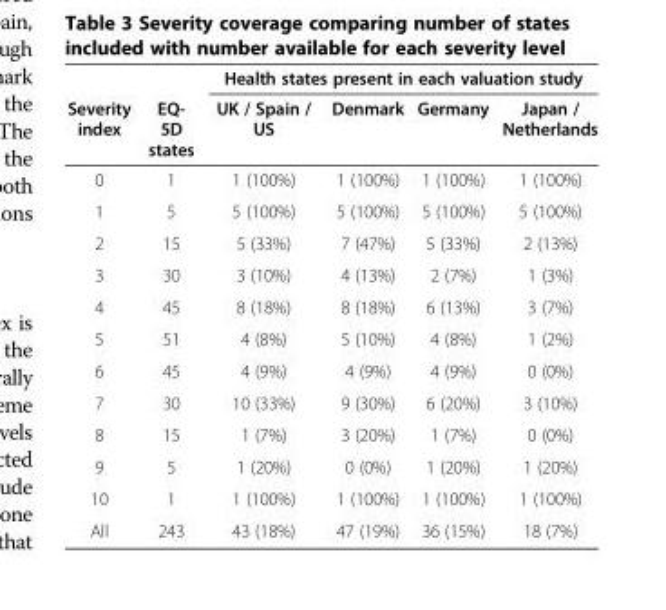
<table><thead><tr><td rowspan="2">Severity index</td><td rowspan="2">EQ- 5D states</td><td colspan="4">Health states present in each valuation study</td></tr><tr><td>UK / Spain / US</td><td>Denmark</td><td>Germany</td><td>Japan / Netherlands</td></tr></thead><tbody><tr><td>0</td><td>1</td><td>1 (100%)</td><td>1 (100%)</td><td>1 (100%)</td><td>1 (100%)</td></tr><tr><td>1</td><td>5</td><td>5 (100%)</td><td>5 (100%)</td><td>5 (100%)</td><td>5 (100%)</td></tr><tr><td>2</td><td>15</td><td>5 (33%)</td><td>7 (47%)</td><td>5 (33%)</td><td>2 (13%)</td></tr><tr><td>3</td><td>30</td><td>3 (10%)</td><td>4 (13%)</td><td>2 (7%)</td><td>1 (3%)</td></tr><tr><td>4</td><td>45</td><td>8 (18%)</td><td>8 (18%)</td><td>6 (13%)</td><td>3 (7%)</td></tr><tr><td>5</td><td>51</td><td>4 (8%)</td><td>5 (10%)</td><td>4 (8%)</td><td>1 (2%)</td></tr><tr><td>6</td><td>45</td><td>4 (9%)</td><td>4 (9%)</td><td>4 (9%)</td><td>0 (0%)</td></tr><tr><td>7</td><td>30</td><td>10 (33%)</td><td>9 (30%)</td><td>6 (20%)</td><td>3 (10%)</td></tr><tr><td>8</td><td>15</td><td>1 (7%)</td><td>3 (20%)</td><td>1 (7%)</td><td>0 (0%)</td></tr><tr><td>9</td><td>5</td><td>1 (20%)</td><td>0 (0%)</td><td>1 (20%)</td><td>1 (20%)</td></tr><tr><td>10</td><td>1</td><td>1 (100%)</td><td>1 (100%)</td><td>1 (100%)</td><td>1 (100%)</td></tr><tr><td>All</td><td>243</td><td>43 (18%)</td><td>47 (19%)</td><td>36 (15%)</td><td>18 (7%)</td></tr></tbody></table>